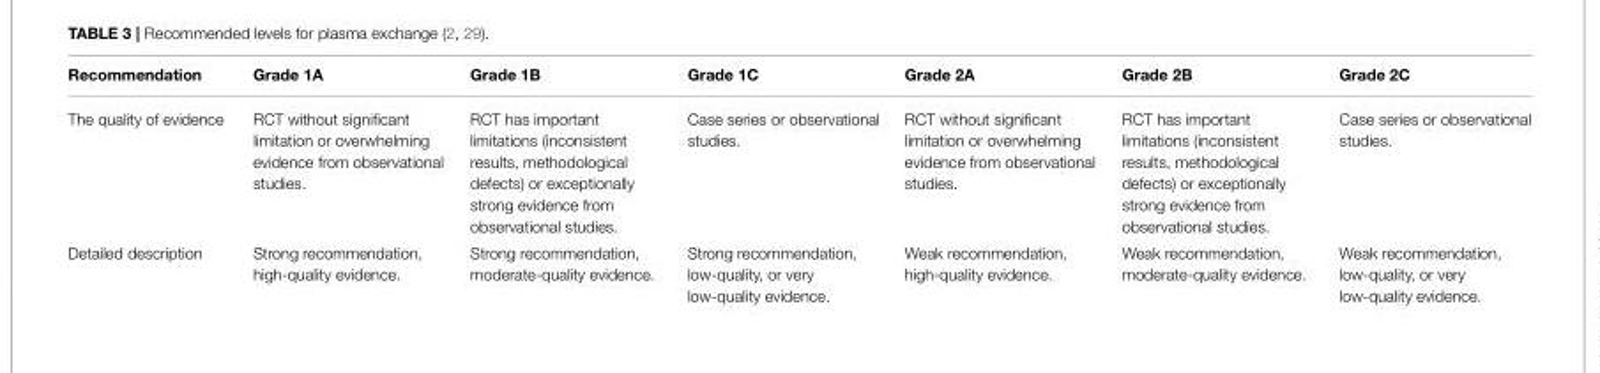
<table><thead><tr><td>Recommendation</td><td>Grade 1A</td><td>Grade 1B</td><td>Grade 1C</td><td>Grade 2A</td><td>Grade 2B</td><td>Grade 2C</td></tr></thead><tbody><tr><td>The quality of evidence</td><td>RCT without significant limitation or overwhelming evidence from observational studies.</td><td>RCT has important limitations (inconsistent results, methodological defects) or exceptionally strong evidence from observational studies.</td><td>Case series or observational studies.</td><td>RCT without significant limitation or overwhelming evidence from observational studies.</td><td>RCT has important limitations (inconsistent results, methodological defects) or exceptionally strong evidence from observational studies.</td><td>Case series or observational studies.</td></tr><tr><td>Detailed description</td><td>Strong recommendation, high-quality evidence.</td><td>Strong recommendation, moderate-quality evidence.</td><td>Strong recommendation, low-quality, or very low-quality evidence.</td><td>Weak recommendation, high-quality evidence.</td><td>Weak recommendation, moderate-quality evidence.</td><td>Weak recommendation, low-quality, or very low-quality evidence.</td></tr></tbody></table>